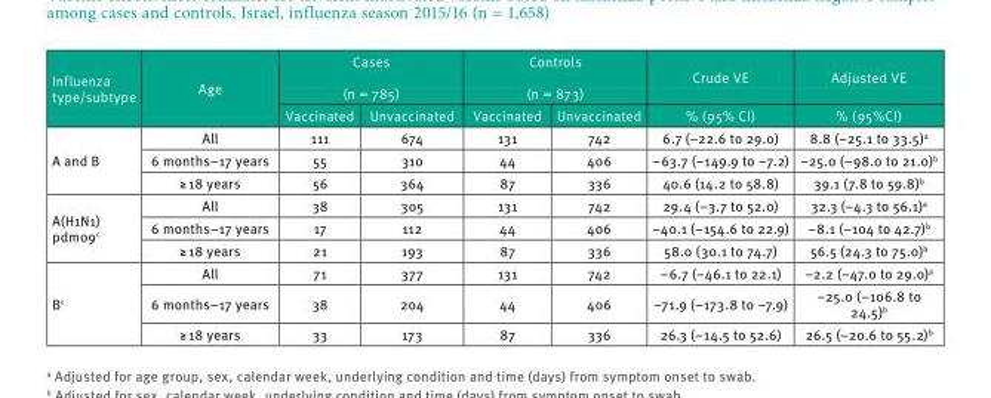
<table><thead><tr><td rowspan="2">Influenza type/subtype</td><td rowspan="2">Age</td><td colspan="2">Cases (n = 785)</td><td colspan="2">Controls (n = 873)</td><td rowspan="2">Crude VE % (95% CI)</td><td rowspan="2">Adjusted VE % (95%CI)</td></tr><tr><td>Vaccinated</td><td>Unvaccinated</td><td>Vaccinated</td><td>Unvaccinated</td></tr></thead><tbody><tr><td rowspan="3">A and B</td><td>All</td><td>111</td><td>674</td><td>131</td><td>742</td><td>6.7 (−22.6 to 29.0)</td><td>8.8 (−25.1 to 33.5)<sup>a</sup></td></tr><tr><td>6 months–17 years</td><td>55</td><td>310</td><td>44</td><td>406</td><td>−63.7 (−149.9 to −7.2)</td><td>−25.0 (−98.0 to 21.0)<sup>b</sup></td></tr><tr><td>≥ 18 years</td><td>56</td><td>364</td><td>87</td><td>336</td><td>40.6 (14.2 to 58.8)</td><td>39.1 (7.8 to 59.8)<sup>b</sup></td></tr><tr><td rowspan="3">A(H1N1) pdm09<sup>c</sup></td><td>All</td><td>38</td><td>305</td><td>131</td><td>742</td><td>29.4 (−3.7 to 52.0)</td><td>32.3 (−4.3 to 56.1)<sup>a</sup></td></tr><tr><td>6 months–17 years</td><td>17</td><td>112</td><td>44</td><td>406</td><td>−40.1 (−154.6 to 22.9)</td><td>−8.1 (−104 to 42.7)<sup>b</sup></td></tr><tr><td>≥ 18 years</td><td>21</td><td>193</td><td>87</td><td>336</td><td>58.0 (30.1 to 74.7)</td><td>56.5 (24.3 to 75.0)<sup>b</sup></td></tr><tr><td rowspan="3">B<sup>c</sup></td><td>All</td><td>71</td><td>377</td><td>131</td><td>742</td><td>−6.7 (−46.1 to 22.1)</td><td>−2.2 (−47.0 to 29.0)<sup>a</sup></td></tr><tr><td>6 months–17 years</td><td>38</td><td>204</td><td>44</td><td>406</td><td>−71.9 (−173.8 to −7.9)</td><td>−25.0 (−106.8 to 24.5)<sup>b</sup></td></tr><tr><td>≥ 18 years</td><td>33</td><td>173</td><td>87</td><td>336</td><td>26.3 (−14.5 to 52.6)</td><td>26.5 (−20.6 to 55.2)<sup>b</sup></td></tr></tbody></table>